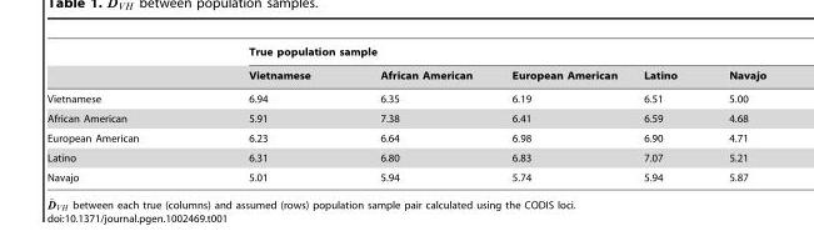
<table><thead><tr><td rowspan="2"></td><td colspan="5">True population sample</td></tr><tr><td>Vietnamese</td><td>African American</td><td>European American</td><td>Latino</td><td>Navajo</td></tr></thead><tbody><tr><td>Vietnamese</td><td>6.94</td><td>6.35</td><td>6.19</td><td>6.51</td><td>5.00</td></tr><tr><td>African American</td><td>5.91</td><td>7.38</td><td>6.41</td><td>6.59</td><td>4.68</td></tr><tr><td>European American</td><td>6.23</td><td>6.64</td><td>6.98</td><td>6.90</td><td>4.71</td></tr><tr><td>Latino</td><td>6.31</td><td>6.80</td><td>6.83</td><td>7.07</td><td>5.21</td></tr><tr><td>Navajo</td><td>5.01</td><td>5.94</td><td>5.74</td><td>5.94</td><td>5.87</td></tr></tbody></table>